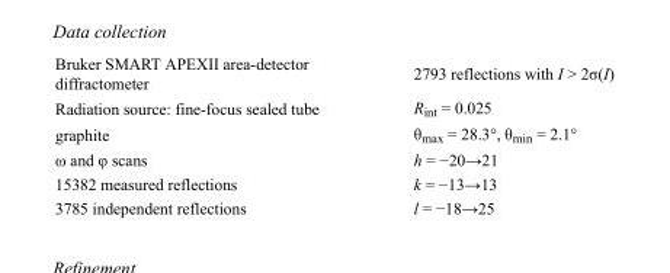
<table><tbody><tr><td>Bruker SMART APEXII area-detector diffractometer</td><td>2793 reflections with I &gt; 2σ(I)</td></tr><tr><td>Radiation source: fine-focus sealed tube</td><td>R<sub>int</sub> = 0.025</td></tr><tr><td>graphite</td><td>θ<sub>max</sub> = 28.3°, θ<sub>min</sub> = 2.1°</td></tr><tr><td>ω and φ scans</td><td>h = −20→21</td></tr><tr><td>15382 measured reflections</td><td>k = −13→13</td></tr><tr><td>3785 independent reflections</td><td>l = −18→25</td></tr></tbody></table>